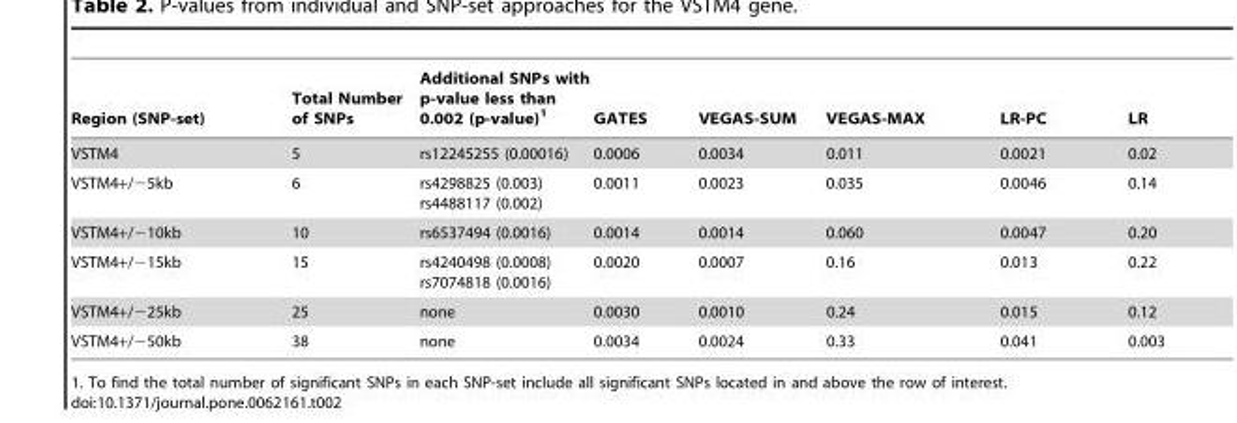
<table><thead><tr><td>Region (SNP-set)</td><td>Total Number of SNPs</td><td>Additional SNPs with p-value less than 0.002 (p-value)<sup>1</sup></td><td>GATES</td><td>VEGAS-SUM</td><td>VEGAS-MAX</td><td>LR-PC</td><td>LR</td></tr></thead><tbody><tr><td>VSTM4</td><td>5</td><td>rs12245255 (0.00016)</td><td>0.0006</td><td>0.0034</td><td>0.011</td><td>0.0021</td><td>0.02</td></tr><tr><td>VSTM4+/−5kb</td><td>6</td><td>rs4298825 (0.003) rs4488117 (0.002)</td><td>0.0011</td><td>0.0023</td><td>0.035</td><td>0.0046</td><td>0.14</td></tr><tr><td>VSTM4+/−10kb</td><td>10</td><td>rs6537494 (0.0016)</td><td>0.0014</td><td>0.0014</td><td>0.060</td><td>0.0047</td><td>0.20</td></tr><tr><td>VSTM4+/−15kb</td><td>15</td><td>rs4240498 (0.0008) rs7074818 (0.0016)</td><td>0.0020</td><td>0.0007</td><td>0.16</td><td>0.013</td><td>0.22</td></tr><tr><td>VSTM4+/−25kb</td><td>25</td><td>none</td><td>0.0030</td><td>0.0010</td><td>0.24</td><td>0.015</td><td>0.12</td></tr><tr><td>VSTM4+/−50kb</td><td>38</td><td>none</td><td>0.0034</td><td>0.0024</td><td>0.33</td><td>0.041</td><td>0.003</td></tr></tbody></table>